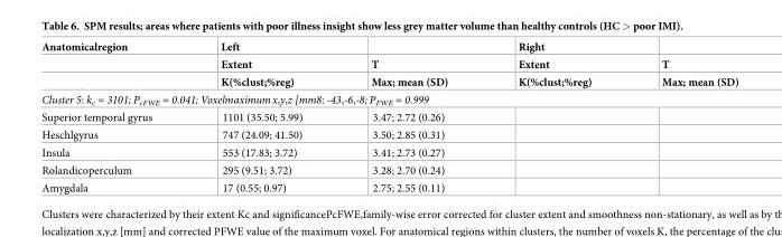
<table><thead><tr><td rowspan="3">Anatomicalregion</td><td rowspan="3">Left Extent K(%clust;%reg)</td><td rowspan="3">T Max; mean (SD)</td><td rowspan="3">Right Extent K(%clust;%reg)</td><td rowspan="3">T Max; mean (SD)</td></tr><tr></tr><tr></tr></thead><tbody><tr><td colspan="5">Cluster 5: k<sub>c</sub> = 3101; P<sub>cFWE</sub> = 0.041; Voxelmaximumx,y,z [mm8: -43,-6,-8; P<sub>FWE</sub> = 0.999</td></tr><tr><td>Superior temporal gyrus</td><td>1101 (35.50; 5.99)</td><td>3.47; 2.72 (0.26)</td><td></td><td></td></tr><tr><td>Heschlgyrus</td><td>747 (24.09; 41.50)</td><td>3.50; 2.85 (0.31)</td><td></td><td></td></tr><tr><td>Insula</td><td>553 (17.83; 3.72)</td><td>3.41; 2.73 (0.27)</td><td></td><td></td></tr><tr><td>Rolandicoperculum</td><td>295 (9.51; 3.72)</td><td>3.28; 2.70 (0.24)</td><td></td><td></td></tr><tr><td>Amygdala</td><td>17 (0.55; 0.97)</td><td>2.75; 2.55 (0.11)</td><td></td><td></td></tr></tbody></table>